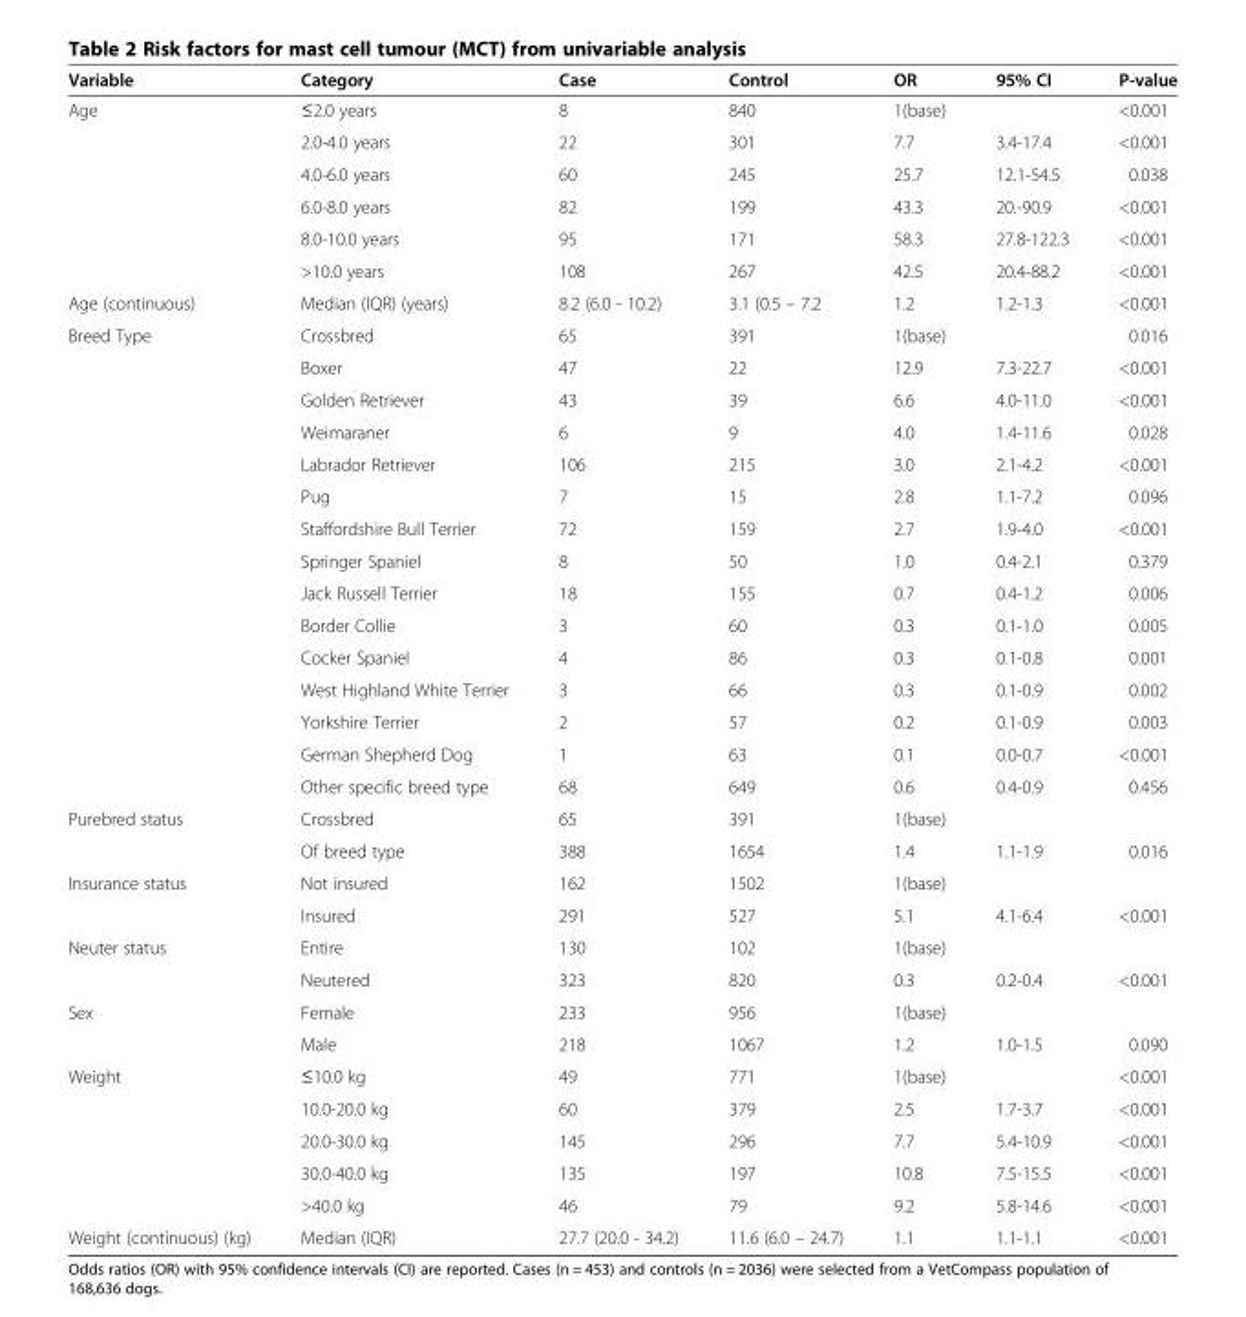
<table><thead><tr><td>Variable</td><td>Category</td><td>Case</td><td>Control</td><td>OR</td><td>95% CI</td><td>P-value</td></tr></thead><tbody><tr><td rowspan="6">Age</td><td>≤2.0 years</td><td>8</td><td>840</td><td>1(base)</td><td></td><td>&lt;0.001</td></tr><tr><td>2.0-4.0 years</td><td>22</td><td>301</td><td>7.7</td><td>3.4-17.4</td><td>&lt;0.001</td></tr><tr><td>4.0-6.0 years</td><td>60</td><td>245</td><td>25.7</td><td>12.1-54.5</td><td>0.038</td></tr><tr><td>6.0-8.0 years</td><td>82</td><td>199</td><td>43.3</td><td>20.-90.9</td><td>&lt;0.001</td></tr><tr><td>8.0-10.0 years</td><td>95</td><td>171</td><td>58.3</td><td>27.8-122.3</td><td>&lt;0.001</td></tr><tr><td>&gt;10.0 years</td><td>108</td><td>267</td><td>42.5</td><td>20.4-88.2</td><td>&lt;0.001</td></tr><tr><td>Age (continuous)</td><td>Median (IQR) (years)</td><td>8.2 (6.0 - 10.2)</td><td>3.1 (0.5 – 7.2</td><td>1.2</td><td>1.2-1.3</td><td>&lt;0.001</td></tr><tr><td rowspan="15">Breed Type</td><td>Crossbred</td><td>65</td><td>391</td><td>1(base)</td><td></td><td>0.016</td></tr><tr><td>Boxer</td><td>47</td><td>22</td><td>12.9</td><td>7.3-22.7</td><td>&lt;0.001</td></tr><tr><td>Golden Retriever</td><td>43</td><td>39</td><td>6.6</td><td>4.0-11.0</td><td>&lt;0.001</td></tr><tr><td>Weimaraner</td><td>6</td><td>9</td><td>4.0</td><td>1.4-11.6</td><td>0.028</td></tr><tr><td>Labrador Retriever</td><td>106</td><td>215</td><td>3.0</td><td>2.1-4.2</td><td>&lt;0.001</td></tr><tr><td>Pug</td><td>7</td><td>15</td><td>2.8</td><td>1.1-7.2</td><td>0.096</td></tr><tr><td>Staffordshire Bull Terrier</td><td>72</td><td>159</td><td>2.7</td><td>1.9-4.0</td><td>&lt;0.001</td></tr><tr><td>Springer Spaniel</td><td>8</td><td>50</td><td>1.0</td><td>0.4-2.1</td><td>0.379</td></tr><tr><td>Jack Russell Terrier</td><td>18</td><td>155</td><td>0.7</td><td>0.4-1.2</td><td>0.006</td></tr><tr><td>Border Collie</td><td>3</td><td>60</td><td>0.3</td><td>0.1-1.0</td><td>0.005</td></tr><tr><td>Cocker Spaniel</td><td>4</td><td>86</td><td>0.3</td><td>0.1-0.8</td><td>0.001</td></tr><tr><td>West Highland White Terrier</td><td>3</td><td>66</td><td>0.3</td><td>0.1-0.9</td><td>0.002</td></tr><tr><td>Yorkshire Terrier</td><td>2</td><td>57</td><td>0.2</td><td>0.1-0.9</td><td>0.003</td></tr><tr><td>German Shepherd Dog</td><td>1</td><td>63</td><td>0.1</td><td>0.0-0.7</td><td>&lt;0.001</td></tr><tr><td>Other specific breed type</td><td>68</td><td>649</td><td>0.6</td><td>0.4-0.9</td><td>0.456</td></tr><tr><td rowspan="2">Purebred status</td><td>Crossbred</td><td>65</td><td>391</td><td>1(base)</td><td></td><td></td></tr><tr><td>Of breed type</td><td>388</td><td>1654</td><td>1.4</td><td>1.1-1.9</td><td>0.016</td></tr><tr><td rowspan="2">Insurance status</td><td>Not insured</td><td>162</td><td>1502</td><td>1(base)</td><td></td><td></td></tr><tr><td>Insured</td><td>291</td><td>527</td><td>5.1</td><td>4.1-6.4</td><td>&lt;0.001</td></tr><tr><td rowspan="2">Neuter status</td><td>Entire</td><td>130</td><td>102</td><td>1(base)</td><td></td><td></td></tr><tr><td>Neutered</td><td>323</td><td>820</td><td>0.3</td><td>0.2-0.4</td><td>&lt;0.001</td></tr><tr><td rowspan="2">Sex</td><td>Female</td><td>233</td><td>956</td><td>1(base)</td><td></td><td></td></tr><tr><td>Male</td><td>218</td><td>1067</td><td>1.2</td><td>1.0-1.5</td><td>0.090</td></tr><tr><td rowspan="5">Weight</td><td>≤10.0 kg</td><td>49</td><td>771</td><td>1(base)</td><td></td><td>&lt;0.001</td></tr><tr><td>10.0-20.0 kg</td><td>60</td><td>379</td><td>2.5</td><td>1.7-3.7</td><td>&lt;0.001</td></tr><tr><td>20.0-30.0 kg</td><td>145</td><td>296</td><td>7.7</td><td>5.4-10.9</td><td>&lt;0.001</td></tr><tr><td>30.0-40.0 kg</td><td>135</td><td>197</td><td>10.8</td><td>7.5-15.5</td><td>&lt;0.001</td></tr><tr><td>&gt;40.0 kg</td><td>46</td><td>79</td><td>9.2</td><td>5.8-14.6</td><td>&lt;0.001</td></tr><tr><td>Weight (continuous) (kg)</td><td>Median (IQR)</td><td>27.7 (20.0 - 34.2)</td><td>11.6 (6.0 – 24.7)</td><td>1.1</td><td>1.1-1.1</td><td>&lt;0.001</td></tr></tbody></table>